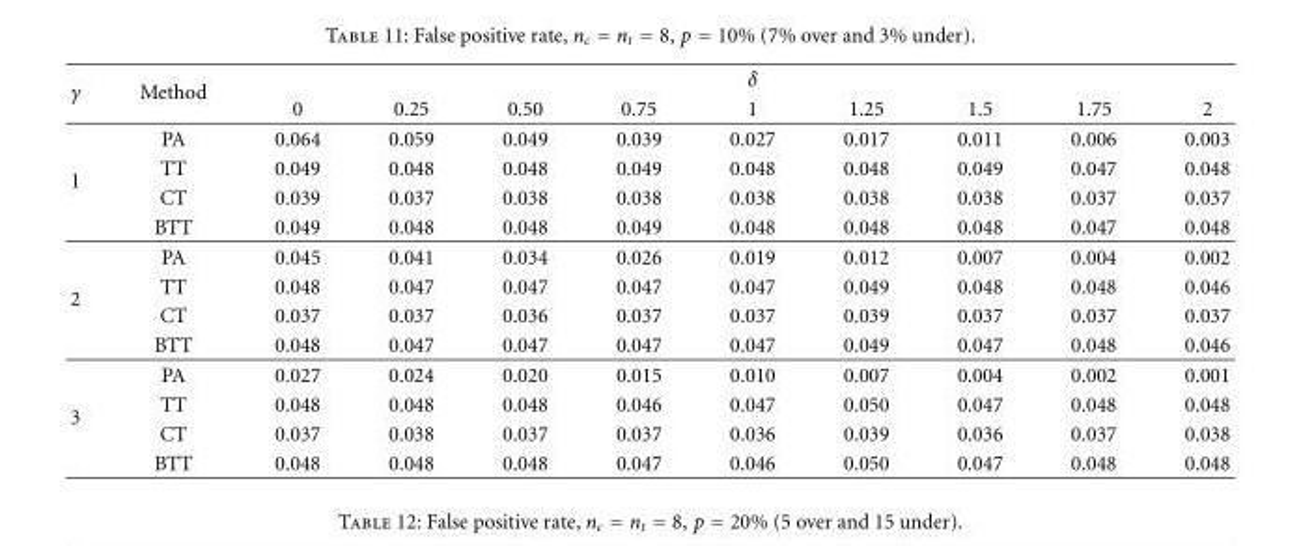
<table><thead><tr><td rowspan="2">γ</td><td rowspan="2">Method</td><td colspan="9">δ</td></tr><tr><td>0</td><td>0.25</td><td>0.50</td><td>0.75</td><td>1</td><td>1.25</td><td>1.5</td><td>1.75</td><td>2</td></tr></thead><tbody><tr><td rowspan="4">1</td><td>PA</td><td>0.064</td><td>0.059</td><td>0.049</td><td>0.039</td><td>0.027</td><td>0.017</td><td>0.011</td><td>0.006</td><td>0.003</td></tr><tr><td>TT</td><td>0.049</td><td>0.048</td><td>0.048</td><td>0.049</td><td>0.048</td><td>0.048</td><td>0.049</td><td>0.047</td><td>0.048</td></tr><tr><td>CT</td><td>0.039</td><td>0.037</td><td>0.038</td><td>0.038</td><td>0.038</td><td>0.038</td><td>0.038</td><td>0.037</td><td>0.037</td></tr><tr><td>BTT</td><td>0.049</td><td>0.048</td><td>0.048</td><td>0.049</td><td>0.048</td><td>0.048</td><td>0.048</td><td>0.047</td><td>0.048</td></tr><tr><td rowspan="4">2</td><td>PA</td><td>0.045</td><td>0.041</td><td>0.034</td><td>0.026</td><td>0.019</td><td>0.012</td><td>0.007</td><td>0.004</td><td>0.002</td></tr><tr><td>TT</td><td>0.048</td><td>0.047</td><td>0.047</td><td>0.047</td><td>0.047</td><td>0.049</td><td>0.048</td><td>0.048</td><td>0.046</td></tr><tr><td>CT</td><td>0.037</td><td>0.037</td><td>0.036</td><td>0.037</td><td>0.037</td><td>0.039</td><td>0.037</td><td>0.037</td><td>0.037</td></tr><tr><td>BTT</td><td>0.048</td><td>0.047</td><td>0.047</td><td>0.047</td><td>0.047</td><td>0.049</td><td>0.047</td><td>0.048</td><td>0.046</td></tr><tr><td rowspan="4">3</td><td>PA</td><td>0.027</td><td>0.024</td><td>0.020</td><td>0.015</td><td>0.010</td><td>0.007</td><td>0.004</td><td>0.002</td><td>0.001</td></tr><tr><td>TT</td><td>0.048</td><td>0.048</td><td>0.048</td><td>0.046</td><td>0.047</td><td>0.050</td><td>0.047</td><td>0.048</td><td>0.048</td></tr><tr><td>CT</td><td>0.037</td><td>0.038</td><td>0.037</td><td>0.037</td><td>0.036</td><td>0.039</td><td>0.036</td><td>0.037</td><td>0.038</td></tr><tr><td>BTT</td><td>0.048</td><td>0.048</td><td>0.048</td><td>0.047</td><td>0.046</td><td>0.050</td><td>0.047</td><td>0.048</td><td>0.048</td></tr></tbody></table>